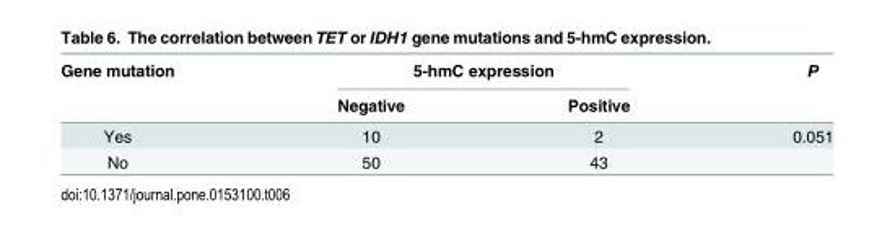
<table><thead><tr><td rowspan="2">Gene mutation</td><td colspan="2">5-hmC expression</td><td rowspan="2">P</td></tr><tr><td>Negative</td><td>Positive</td></tr></thead><tbody><tr><td>Yes</td><td>10</td><td>2</td><td>0.051</td></tr><tr><td>No</td><td>50</td><td>43</td><td></td></tr></tbody></table>